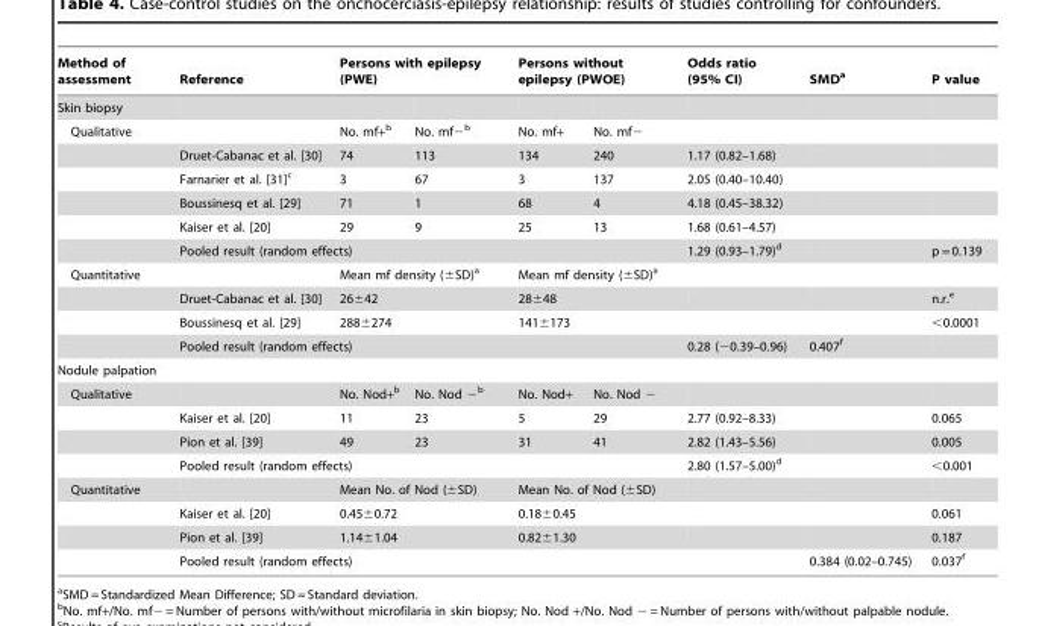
<table><thead><tr><td rowspan="2">Method of assessment Skin biopsy</td><td rowspan="2">Reference</td><td colspan="2">Persons with epilepsy (PWE)</td><td colspan="2">Persons without epilepsy (PWOE)</td><td rowspan="2">Odds ratio (95% CI)</td><td rowspan="2">SMD<sup>a</sup></td><td rowspan="2">P value</td></tr><tr><td></td><td></td><td></td><td></td></tr></thead><tbody><tr><td rowspan="6">Qualitative</td><td></td><td>No. mf+<sup>b</sup></td><td>No. mf−b</td><td>No. mf+</td><td>No. mf−</td><td></td><td></td><td></td></tr><tr><td>Druet-Cabanac et al. [30]</td><td>74</td><td>113</td><td>134</td><td>240</td><td>1.17 (0.82–1.68)</td><td></td><td></td></tr><tr><td>Farnarier et al. [31]c</td><td>3</td><td>67</td><td>3</td><td>137</td><td>2.05 (0.40–10.40)</td><td></td><td></td></tr><tr><td>Boussinesq et al. [29]</td><td>71</td><td>1</td><td>68</td><td>4</td><td>4.18 (0.45–38.32)</td><td></td><td></td></tr><tr><td>Kaiser et al. [20]</td><td>29</td><td>9</td><td>25</td><td>13</td><td>1.68 (0.61–4.57)</td><td></td><td></td></tr><tr><td colspan="5">Pooled result (random effects)</td><td>1.29 (0.93–1.79)<sup>d</sup></td><td></td><td>p = 0.139</td></tr><tr><td rowspan="4">Quantitative</td><td></td><td colspan="2">Mean mf density (±SD)<sup>a</sup></td><td colspan="2">Mean mf density (±SD)<sup>a</sup></td><td></td><td></td><td></td></tr><tr><td>Druet-Cabanac et al. [30]</td><td colspan="2">26±42</td><td colspan="2">28±48</td><td></td><td></td><td>n.r.<sup>e</sup></td></tr><tr><td>Boussinesq et al. [29]</td><td colspan="2">288±274</td><td colspan="2">141±173</td><td></td><td></td><td>&lt;0.0001</td></tr><tr><td colspan="5">Pooled result (random effects)</td><td>0.28 (−0.39–0.96)</td><td>0.407<sup>f</sup></td><td></td></tr><tr><td colspan="9">Nodule palpation</td></tr><tr><td rowspan="4">Qualitative</td><td></td><td>No. Nod+<sup>b</sup></td><td>No. Nod −b</td><td>No. Nod+</td><td>No. Nod −</td><td></td><td></td><td></td></tr><tr><td>Kaiser et al. [20]</td><td>11</td><td>23</td><td>5</td><td>29</td><td>2.77 (0.92–8.33)</td><td></td><td>0.065</td></tr><tr><td>Pion et al. [39]</td><td>49</td><td>23</td><td>31</td><td>41</td><td>2.82 (1.43–5.56)</td><td></td><td>0.005</td></tr><tr><td colspan="5">Pooled result (random effects)</td><td>2.80 (1.57–5.00)<sup>d</sup></td><td></td><td>&lt;0.001</td></tr><tr><td rowspan="4">Quantitative</td><td></td><td colspan="2">Mean No. of Nod (±SD)</td><td colspan="2">Mean No. of Nod (±SD)</td><td></td><td></td><td></td></tr><tr><td>Kaiser et al. [20]</td><td colspan="2">0.45±0.72</td><td colspan="2">0.18±0.45</td><td></td><td></td><td>0.061</td></tr><tr><td>Pion et al. [39]</td><td colspan="2">1.14±1.04</td><td colspan="2">0.82±1.30</td><td></td><td></td><td>0.187</td></tr><tr><td colspan="6">Pooled result (random effects)</td><td>0.384 (0.02–0.745)</td><td>0.037<sup>f</sup></td></tr></tbody></table>